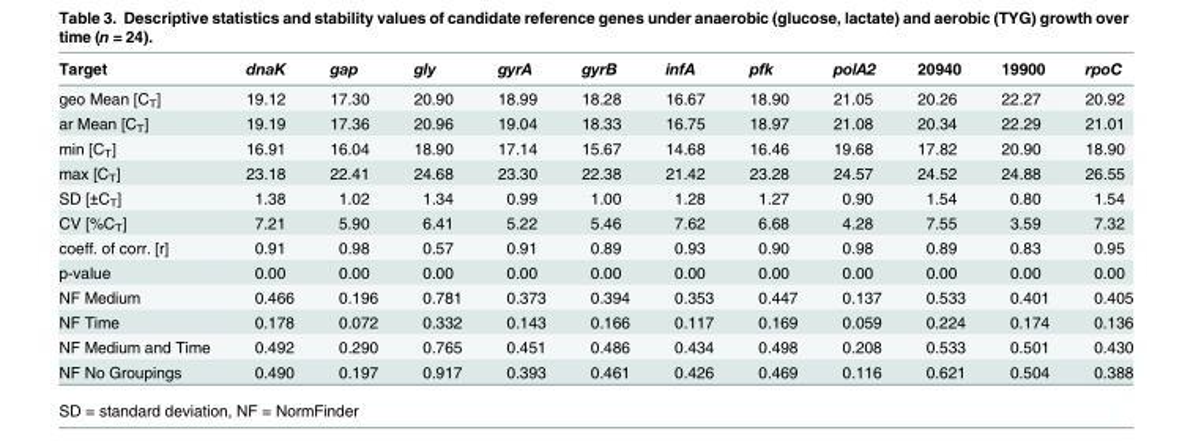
<table><thead><tr><td>Target</td><td>dnaK</td><td>gap</td><td>gly</td><td>gyrA</td><td>gyrB</td><td>infA</td><td>pfk</td><td>polA2</td><td>20940</td><td>19900</td><td>rpoC</td></tr></thead><tbody><tr><td>geo Mean [C<sub>T</sub>]</td><td>19.12</td><td>17.30</td><td>20.90</td><td>18.99</td><td>18.28</td><td>16.67</td><td>18.90</td><td>21.05</td><td>20.26</td><td>22.27</td><td>20.92</td></tr><tr><td>ar Mean [C<sub>T</sub>]</td><td>19.19</td><td>17.36</td><td>20.96</td><td>19.04</td><td>18.33</td><td>16.75</td><td>18.97</td><td>21.08</td><td>20.34</td><td>22.29</td><td>21.01</td></tr><tr><td>min [C<sub>T</sub>]</td><td>16.91</td><td>16.04</td><td>18.90</td><td>17.14</td><td>15.67</td><td>14.68</td><td>16.46</td><td>19.68</td><td>17.82</td><td>20.90</td><td>18.90</td></tr><tr><td>max [C<sub>T</sub>]</td><td>23.18</td><td>22.41</td><td>24.68</td><td>23.30</td><td>22.38</td><td>21.42</td><td>23.28</td><td>24.57</td><td>24.52</td><td>24.88</td><td>26.55</td></tr><tr><td>SD [±C<sub>T</sub>]</td><td>1.38</td><td>1.02</td><td>1.34</td><td>0.99</td><td>1.00</td><td>1.28</td><td>1.27</td><td>0.90</td><td>1.54</td><td>0.80</td><td>1.54</td></tr><tr><td>CV [%C<sub>T</sub>]</td><td>7.21</td><td>5.90</td><td>6.41</td><td>5.22</td><td>5.46</td><td>7.62</td><td>6.68</td><td>4.28</td><td>7.55</td><td>3.59</td><td>7.32</td></tr><tr><td>coeff. of corr. [r]</td><td>0.91</td><td>0.98</td><td>0.57</td><td>0.91</td><td>0.89</td><td>0.93</td><td>0.90</td><td>0.98</td><td>0.89</td><td>0.83</td><td>0.95</td></tr><tr><td>p-value</td><td>0.00</td><td>0.00</td><td>0.00</td><td>0.00</td><td>0.00</td><td>0.00</td><td>0.00</td><td>0.00</td><td>0.00</td><td>0.00</td><td>0.00</td></tr><tr><td>NF Medium</td><td>0.466</td><td>0.196</td><td>0.781</td><td>0.373</td><td>0.394</td><td>0.353</td><td>0.447</td><td>0.137</td><td>0.533</td><td>0.401</td><td>0.405</td></tr><tr><td>NF Time</td><td>0.178</td><td>0.072</td><td>0.332</td><td>0.143</td><td>0.166</td><td>0.117</td><td>0.169</td><td>0.059</td><td>0.224</td><td>0.174</td><td>0.136</td></tr><tr><td>NF Medium and Time</td><td>0.492</td><td>0.290</td><td>0.765</td><td>0.451</td><td>0.486</td><td>0.434</td><td>0.498</td><td>0.208</td><td>0.533</td><td>0.501</td><td>0.430</td></tr><tr><td>NF No Groupings</td><td>0.490</td><td>0.197</td><td>0.917</td><td>0.393</td><td>0.461</td><td>0.426</td><td>0.469</td><td>0.116</td><td>0.621</td><td>0.504</td><td>0.388</td></tr></tbody></table>